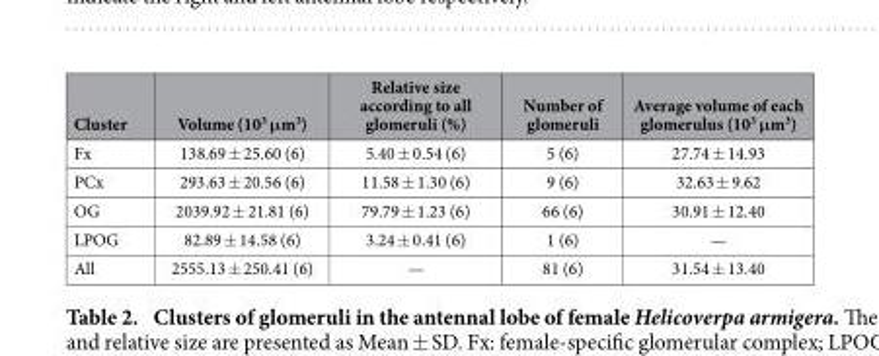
<table><thead><tr><td>Cluster</td><td>Volume (10<sup>3</sup> μm<sup>3</sup>)</td><td>Relative size according to all glomeruli (%)</td><td>Number of glomeruli</td><td>Average volume of each glomerulus (10<sup>3</sup> μm<sup>3</sup>)</td></tr></thead><tbody><tr><td>Fx</td><td>138.69 ± 25.60 (6)</td><td>5.40 ± 0.54 (6)</td><td>5 (6)</td><td>27.74 ± 14.93</td></tr><tr><td>PCx</td><td>293.63 ± 20.56 (6)</td><td>11.58 ± 1.30 (6)</td><td>9 (6)</td><td>32.63 ± 9.62</td></tr><tr><td>OG</td><td>2039.92 ± 21.81 (6)</td><td>79.79 ± 1.23 (6)</td><td>66 (6)</td><td>30.91 ± 12.40</td></tr><tr><td>LPOG</td><td>82.89 ± 14.58 (6)</td><td>3.24 ± 0.41 (6)</td><td>1 (6)</td><td>—</td></tr><tr><td>All</td><td>2555.13 ± 250.41 (6)</td><td>—</td><td>81 (6)</td><td>31.54 ± 13.40</td></tr></tbody></table>